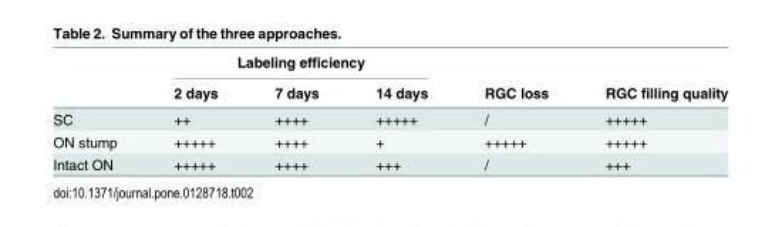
<table><thead><tr><td rowspan="2"></td><td colspan="3">Labeling efficiency</td><td rowspan="2">RGC loss</td><td rowspan="2">RGC filling quality</td></tr><tr><td>2 days</td><td>7 days</td><td>14 days</td></tr></thead><tbody><tr><td>SC</td><td>++</td><td>++++</td><td>+++++</td><td>/</td><td>+++++</td></tr><tr><td>ON stump</td><td>+++++</td><td>++++</td><td>+</td><td>+++++</td><td>+++++</td></tr><tr><td>Intact ON</td><td>+++++</td><td>++++</td><td>+++</td><td>/</td><td>+++</td></tr></tbody></table>